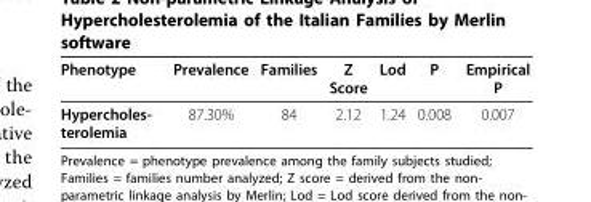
<table><thead><tr><td>Phenotype</td><td>Prevalence</td><td>Families</td><td>Z Score</td><td>Lod</td><td>P</td><td>Empirical P</td></tr></thead><tbody><tr><td>Hypercholes- terolemia</td><td>87.30%</td><td>84</td><td>2.12</td><td>1.24</td><td>0.008</td><td>0.007</td></tr></tbody></table>